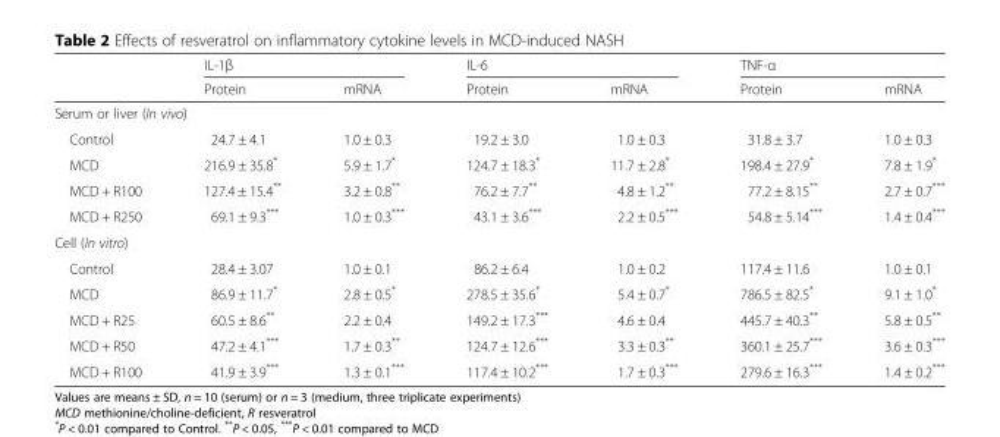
<table><thead><tr><td rowspan="2"></td><td colspan="2">IL-1β</td><td colspan="2">IL-6</td><td colspan="2">TNF-α</td></tr><tr><td>Protein</td><td>mRNA</td><td>Protein</td><td>mRNA</td><td>Protein</td><td>mRNA</td></tr></thead><tbody><tr><td colspan="7">Serum or liver (In vivo)</td></tr><tr><td>Control</td><td>24.7 ± 4.1</td><td>1.0 ± 0.3</td><td>19.2 ± 3.0</td><td>1.0 ± 0.3</td><td>31.8 ± 3.7</td><td>1.0 ± 0.3</td></tr><tr><td>MCD</td><td>216.9 ± 35.8*</td><td>5.9 ± 1.7*</td><td>124.7 ± 18.3*</td><td>11.7 ± 2.8*</td><td>198.4 ± 27.9*</td><td>7.8 ± 1.9*</td></tr><tr><td>MCD + R100</td><td>127.4 ± 15.4**</td><td>3.2 ± 0.8**</td><td>76.2 ± 7.7**</td><td>4.8 ± 1.2**</td><td>77.2 ± 8.15**</td><td>2.7 ± 0.7***</td></tr><tr><td>MCD + R250</td><td>69.1 ± 9.3***</td><td>1.0 ± 0.3***</td><td>43.1 ± 3.6***</td><td>2.2 ± 0.5***</td><td>54.8 ± 5.14***</td><td>1.4 ± 0.4***</td></tr><tr><td colspan="7">Cell (In vitro)</td></tr><tr><td>Control</td><td>28.4 ± 3.07</td><td>1.0 ± 0.1</td><td>86.2 ± 6.4</td><td>1.0 ± 0.2</td><td>117.4 ± 11.6</td><td>1.0 ± 0.1</td></tr><tr><td>MCD</td><td>86.9 ± 11.7*</td><td>2.8 ± 0.5*</td><td>278.5 ± 35.6*</td><td>5.4 ± 0.7*</td><td>786.5 ± 82.5*</td><td>9.1 ± 1.0*</td></tr><tr><td>MCD + R25</td><td>60.5 ± 8.6**</td><td>2.2 ± 0.4</td><td>149.2 ± 17.3***</td><td>4.6 ± 0.4</td><td>445.7 ± 40.3**</td><td>5.8 ± 0.5**</td></tr><tr><td>MCD + R50</td><td>47.2 ± 4.1***</td><td>1.7 ± 0.3**</td><td>124.7 ± 12.6***</td><td>3.3 ± 0.3**</td><td>360.1 ± 25.7***</td><td>3.6 ± 0.3***</td></tr><tr><td>MCD + R100</td><td>41.9 ± 3.9***</td><td>1.3 ± 0.1***</td><td>117.4 ± 10.2***</td><td>1.7 ± 0.3***</td><td>279.6 ± 16.3***</td><td>1.4 ± 0.2***</td></tr></tbody></table>